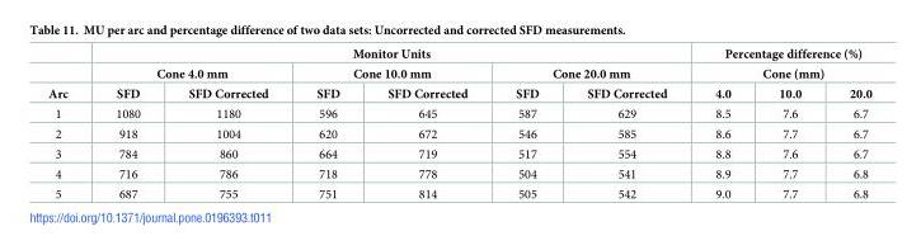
<table><thead><tr><td rowspan="3">Arc</td><td colspan="6">Monitor Units</td><td rowspan="2" colspan="3">Percentage difference (%) Cone (mm)</td></tr><tr><td colspan="2">Cone 4.0 mm</td><td colspan="2">Cone 10.0 mm</td><td colspan="2">Cone 20.0 mm</td></tr><tr><td>SFD</td><td>SFD Corrected</td><td>SFD</td><td>SFD Corrected</td><td>SFD</td><td>SFD Corrected</td><td>4.0</td><td>10.0</td><td>20.0</td></tr></thead><tbody><tr><td>1</td><td>1080</td><td>1180</td><td>596</td><td>645</td><td>587</td><td>629</td><td>8.5</td><td>7.6</td><td>6.7</td></tr><tr><td>2</td><td>918</td><td>1004</td><td>620</td><td>672</td><td>546</td><td>585</td><td>8.6</td><td>7.7</td><td>6.7</td></tr><tr><td>3</td><td>784</td><td>860</td><td>664</td><td>719</td><td>517</td><td>554</td><td>8.8</td><td>7.6</td><td>6.7</td></tr><tr><td>4</td><td>716</td><td>786</td><td>718</td><td>778</td><td>504</td><td>541</td><td>8.9</td><td>7.7</td><td>6.8</td></tr><tr><td>5</td><td>687</td><td>755</td><td>751</td><td>814</td><td>505</td><td>542</td><td>9.0</td><td>7.7</td><td>6.8</td></tr></tbody></table>